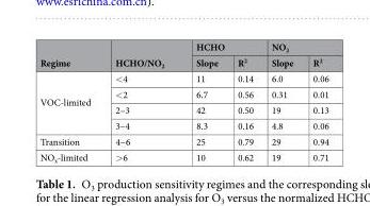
<table><thead><tr><td rowspan="2">Regime</td><td rowspan="2">HCHO/NO<sub>2</sub></td><td colspan="2">HCHO</td><td colspan="2">NO<sub>2</sub></td></tr><tr><td>Slope</td><td>R<sup>2</sup></td><td>Slope</td><td>R<sup>2</sup></td></tr></thead><tbody><tr><td rowspan="4">VOC-limited</td><td>&lt;4</td><td>11</td><td>0.14</td><td>6.0</td><td>0.06</td></tr><tr><td>&lt;2</td><td>6.7</td><td>0.56</td><td>0.31</td><td>0.01</td></tr><tr><td>2–3</td><td>42</td><td>0.50</td><td>19</td><td>0.13</td></tr><tr><td>3–4</td><td>8.3</td><td>0.16</td><td>4.8</td><td>0.06</td></tr><tr><td>Transition</td><td>4~6</td><td>25</td><td>0.79</td><td>29</td><td>0.94</td></tr><tr><td>NO<sub>x</sub>-limited</td><td>&gt;6</td><td>10</td><td>0.62</td><td>19</td><td>0.71</td></tr></tbody></table>